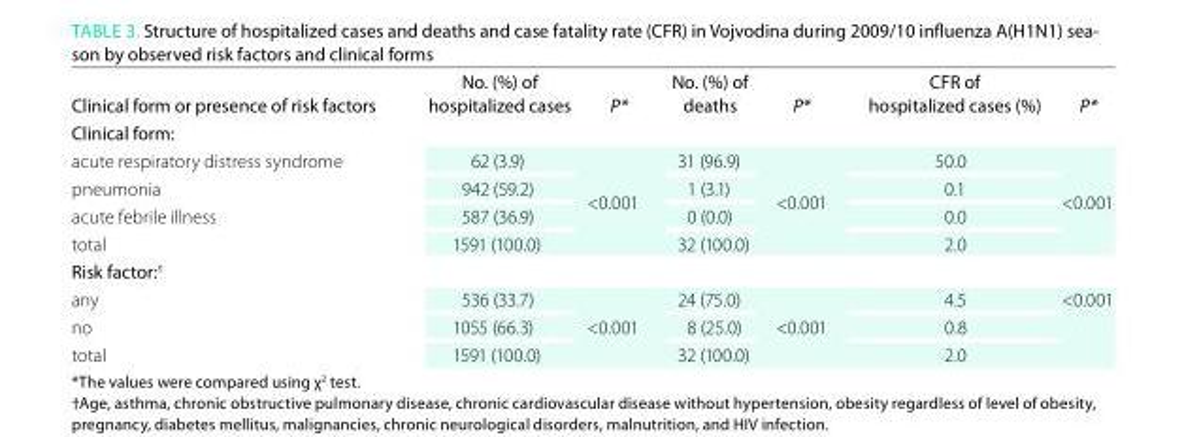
<table><thead><tr><td>Clinical form or presence of risk factors</td><td>No. (%) of hospitalized cases</td><td>P*</td><td>No. (%) of deaths</td><td>P*</td><td>CFR of hospitalized cases (%)</td><td>P*</td></tr></thead><tbody><tr><td colspan="7">Clinical form:</td></tr><tr><td>acute respiratory distress syndrome</td><td>62 (3.9)</td><td rowspan="4">&lt;0.001</td><td>31 (96.9)</td><td rowspan="4">&lt;0.001</td><td>50.0</td><td rowspan="4">&lt;0.001</td></tr><tr><td>pneumonia</td><td>942 (59.2)</td><td>1 (3.1)</td><td>0.1</td></tr><tr><td>acute febrile illness</td><td>587 (36.9)</td><td>0 (0.0)</td><td>0.0</td></tr><tr><td>total</td><td>1591 (100.0)</td><td>32 (100.0)</td><td>2.0</td></tr><tr><td colspan="7">Risk factor:<sup>†</sup></td></tr><tr><td>any</td><td>536 (33.7)</td><td rowspan="3">&lt;0.001</td><td>24 (75.0)</td><td rowspan="3">&lt;0.001</td><td>4.5</td><td rowspan="3">&lt;0.001</td></tr><tr><td>no</td><td>1055 (66.3)</td><td>8 (25.0)</td><td>0.8</td></tr><tr><td>total</td><td>1591 (100.0)</td><td>32 (100.0)</td><td>2.0</td></tr></tbody></table>